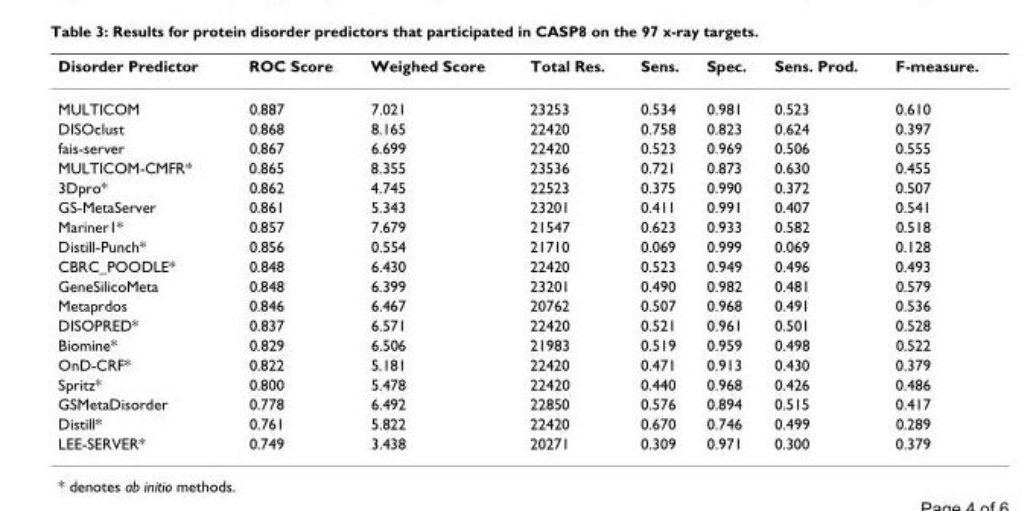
<table><thead><tr><td>Disorder Predictor</td><td>ROC Score</td><td>Weighed Score</td><td>Total Res.</td><td>Sens.</td><td>Spec.</td><td>Sens. Prod.</td><td>F-measure.</td></tr></thead><tbody><tr><td>MULTICOM</td><td>0.887</td><td>7.021</td><td>23253</td><td>0.534</td><td>0.981</td><td>0.523</td><td>0.610</td></tr><tr><td>DISOclust</td><td>0.868</td><td>8.165</td><td>22420</td><td>0.758</td><td>0.823</td><td>0.624</td><td>0.397</td></tr><tr><td>fais-server</td><td>0.867</td><td>6.699</td><td>22420</td><td>0.523</td><td>0.969</td><td>0.506</td><td>0.555</td></tr><tr><td>MULTICOM-CMFR*</td><td>0.865</td><td>8.355</td><td>23536</td><td>0.721</td><td>0.873</td><td>0.630</td><td>0.455</td></tr><tr><td>3Dpro*</td><td>0.862</td><td>4.745</td><td>22523</td><td>0.375</td><td>0.990</td><td>0.372</td><td>0.507</td></tr><tr><td>GS-MetaServer</td><td>0.861</td><td>5.343</td><td>23201</td><td>0.411</td><td>0.991</td><td>0.407</td><td>0.541</td></tr><tr><td>Mariner1*</td><td>0.857</td><td>7.679</td><td>21547</td><td>0.623</td><td>0.933</td><td>0.582</td><td>0.518</td></tr><tr><td>Distill-Punch*</td><td>0.856</td><td>0.554</td><td>21710</td><td>0.069</td><td>0.999</td><td>0.069</td><td>0.128</td></tr><tr><td>CBRC_POODLE*</td><td>0.848</td><td>6.430</td><td>22420</td><td>0.523</td><td>0.949</td><td>0.496</td><td>0.493</td></tr><tr><td>GeneSilicoMeta</td><td>0.848</td><td>6.399</td><td>23201</td><td>0.490</td><td>0.982</td><td>0.481</td><td>0.579</td></tr><tr><td>Metaprdos</td><td>0.846</td><td>6.467</td><td>20762</td><td>0.507</td><td>0.968</td><td>0.491</td><td>0.536</td></tr><tr><td>DISOPRED*</td><td>0.837</td><td>6.571</td><td>22420</td><td>0.521</td><td>0.961</td><td>0.501</td><td>0.528</td></tr><tr><td>Biomine*</td><td>0.829</td><td>6.506</td><td>21983</td><td>0.519</td><td>0.959</td><td>0.498</td><td>0.522</td></tr><tr><td>OnD-CRF*</td><td>0.822</td><td>5.181</td><td>22420</td><td>0.471</td><td>0.913</td><td>0.430</td><td>0.379</td></tr><tr><td>Spritz*</td><td>0.800</td><td>5.478</td><td>22420</td><td>0.440</td><td>0.968</td><td>0.426</td><td>0.486</td></tr><tr><td>GSMetaDisorder</td><td>0.778</td><td>6.492</td><td>22850</td><td>0.576</td><td>0.894</td><td>0.515</td><td>0.417</td></tr><tr><td>Distill*</td><td>0.761</td><td>5.822</td><td>22420</td><td>0.670</td><td>0.746</td><td>0.499</td><td>0.289</td></tr><tr><td>LEE-SERVER*</td><td>0.749</td><td>3.438</td><td>20271</td><td>0.309</td><td>0.971</td><td>0.300</td><td>0.379</td></tr></tbody></table>